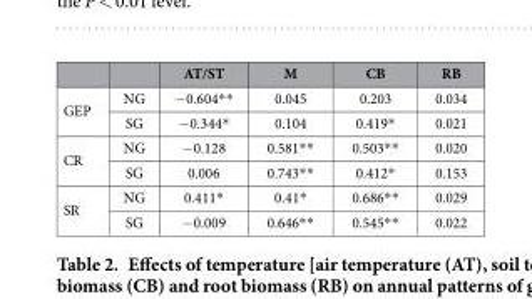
<table><thead><tr><td></td><td></td><td>AT/ST</td><td>M</td><td>CB</td><td>RB</td></tr></thead><tbody><tr><td rowspan="2">GEP</td><td>NG</td><td>− 0.604* *</td><td>0.045</td><td>0.203</td><td>0.034</td></tr><tr><td>SG</td><td>− 0.344*</td><td>0.104</td><td>0.419*</td><td>0.021</td></tr><tr><td rowspan="2">CR</td><td>NG</td><td>− 0.128</td><td>0.581* *</td><td>0.503* *</td><td>0.020</td></tr><tr><td>SG</td><td>0.006</td><td>0.743* *</td><td>0.412*</td><td>0.153</td></tr><tr><td rowspan="2">SR</td><td>NG</td><td>0.411*</td><td>0.41*</td><td>0.686* *</td><td>0.029</td></tr><tr><td>SG</td><td>− 0.009</td><td>0.646* *</td><td>0.545* *</td><td>0.022</td></tr></tbody></table>